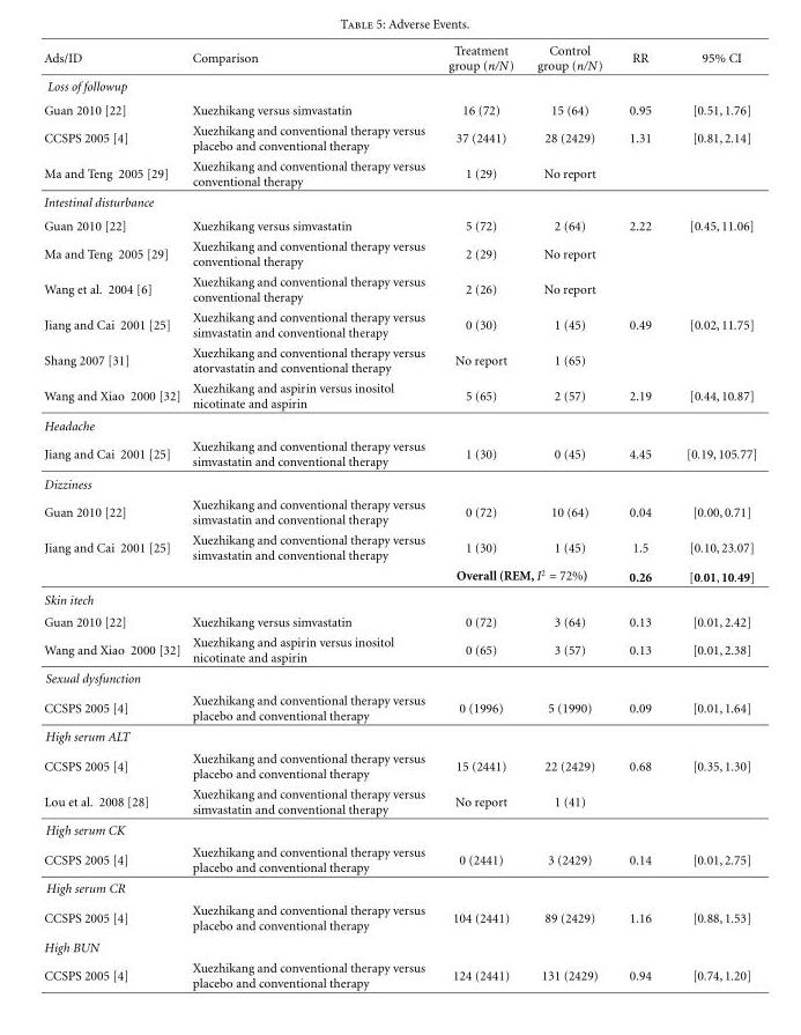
<table><thead><tr><td>Ads/ID</td><td>Comparison</td><td>Treatment group (n/N)</td><td>Control group (n/N)</td><td>RR</td><td>95% CI</td></tr></thead><tbody><tr><td colspan="6">Loss of followup</td></tr><tr><td>Guan 2010 [22]</td><td>Xuezhikang versus simvastatin</td><td>16 (72)</td><td>15 (64)</td><td>0.95</td><td>[0.51,1.76]</td></tr><tr><td>CCSPS 2005 [4]</td><td>Xuezhikang and conventional therapy versus placebo and conventional therapy</td><td>37 (2441)</td><td>28 (2429)</td><td>1.31</td><td>[0.81,2.14]</td></tr><tr><td>Ma and Teng 2005 [29]</td><td>Xuezhikang and conventional therapy versus conventional therapy</td><td>1 (29)</td><td>No report</td><td></td><td></td></tr><tr><td colspan="6">Intestinal disturbance</td></tr><tr><td>Guan 2010 [22]</td><td>Xuezhikang versus simvastatin</td><td>5 (72)</td><td>2 (64)</td><td>2.22</td><td>[0.45,11.06]</td></tr><tr><td>Ma and Teng 2005 [29]</td><td>Xuezhikang and conventional therapy versus conventional therapy</td><td>2 (29)</td><td>No report</td><td></td><td></td></tr><tr><td>Wang et al. 2004 [6]</td><td>Xuezhikang and conventional therapy versus conventional therapy</td><td>2 (26)</td><td>No report</td><td></td><td></td></tr><tr><td>Jiang and Cai 2001 [25]</td><td>Xuezhikang and conventional therapy versus simvastatin and conventional therapy</td><td>0 (30)</td><td>1 (45)</td><td>0.49</td><td>[0.02,11.75]</td></tr><tr><td>Shang 2007 [31]</td><td>Xuezhikang and conventional therapy versus atorvastatin and conventional therapy</td><td>No report</td><td>1 (65)</td><td></td><td></td></tr><tr><td>Wang and Xiao 2000 [32]</td><td>Xuezhikang and aspirin versus inositol nicotinate and aspirin</td><td>5 (65)</td><td>2 (57)</td><td>2.19</td><td>[0.44,10.87]</td></tr><tr><td colspan="6">Headache</td></tr><tr><td>Jiang and Cai 2001 [25]</td><td>Xuezhikang and conventional therapy versus simvastatin and conventional therapy</td><td>1 (30)</td><td>0 (45)</td><td>4.45</td><td>[0.19,105.77]</td></tr><tr><td colspan="6">Dizziness</td></tr><tr><td>Guan 2010 [22]</td><td>Xuezhikang and conventional therapy versus simvastatin and conventional therapy</td><td>0 (72)</td><td>10 (64)</td><td>0.04</td><td>[0.00,0.71]</td></tr><tr><td rowspan="2">Jiang and Cai 2001 [25]</td><td>Xuezhikang and conventional therapy versus simvastatin and conventional therapy</td><td>1 (30)</td><td>1 (45)</td><td>1.5</td><td>[0.10,23.07]</td></tr><tr><td></td><td colspan="2">Overall (REM, I<sup>2</sup> = 72%)</td><td>0.26</td><td>[0.01,10.49]</td></tr><tr><td colspan="6">Skin itech</td></tr><tr><td>Guan 2010 [22]</td><td>Xuezhikang versus simvastatin</td><td>0 (72)</td><td>3 (64)</td><td>0.13</td><td>[0.01,2.42]</td></tr><tr><td>Wang and Xiao 2000 [32]</td><td>Xuezhikang and aspirin versus inositol nicotinate and aspirin</td><td>0 (65)</td><td>3 (57)</td><td>0.13</td><td>[0.01,2.38]</td></tr><tr><td colspan="6">Sexual dysfunction</td></tr><tr><td>CCSPS 2005 [4]</td><td>Xuezhikang and conventional therapy versus placebo and conventional therapy</td><td>0 (1996)</td><td>5 (1990)</td><td>0.09</td><td>[0.01,1.64]</td></tr><tr><td colspan="6">High serum ALT</td></tr><tr><td>CCSPS 2005 [4]</td><td>Xuezhikang and conventional therapy versus placebo and conventional therapy</td><td>15 (2441)</td><td>22 (2429)</td><td>0.68</td><td>[0.35,1.30]</td></tr><tr><td>Lou et al. 2008 [28]</td><td>Xuezhikang and conventional therapy versus simvastatin and conventional therapy</td><td>No report</td><td>1 (41)</td><td></td><td></td></tr><tr><td colspan="6">High serum CK</td></tr><tr><td>CCSPS 2005 [4]</td><td>Xuezhikang and conventional therapy versus placebo and conventional therapy</td><td>0 (2441)</td><td>3 (2429)</td><td>0.14</td><td>[0.01,2.75]</td></tr><tr><td colspan="6">High serum CR</td></tr><tr><td>CCSPS 2005 [4]</td><td>Xuezhikang and conventional therapy versus placebo and conventional therapy</td><td>104 (2441)</td><td>89 (2429)</td><td>1.16</td><td>[0.88,1.53]</td></tr><tr><td colspan="6">High BUN</td></tr><tr><td>CCSPS 2005 [4]</td><td>Xuezhikang and conventional therapy versus placebo and conventional therapy</td><td>124 (2441)</td><td>131 (2429)</td><td>0.94</td><td>[0.74,1.20]</td></tr></tbody></table>